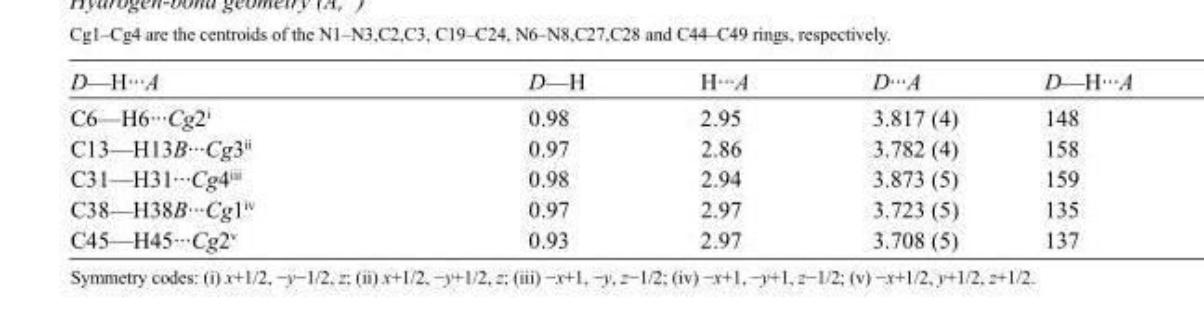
<table><tbody><tr><td>D—H···A</td><td>D—H</td><td>H···A</td><td>D···A</td><td>D—H···A</td></tr><tr><td>C6—H6···Cg2<sup>i</sup></td><td>0.98</td><td>2.95</td><td>3.817 (4)</td><td>148</td></tr><tr><td>C13—H13B···Cg3<sup>ii</sup></td><td>0.97</td><td>2.86</td><td>3.782 (4)</td><td>158</td></tr><tr><td>C31—H31···Cg4<sup>iii</sup></td><td>0.98</td><td>2.94</td><td>3.873 (5)</td><td>159</td></tr><tr><td>C38—H38B···Cg1<sup>iv</sup></td><td>0.97</td><td>2.97</td><td>3.723 (5)</td><td>135</td></tr><tr><td>C45—H45···Cg2<sup>v</sup></td><td>0.93</td><td>2.97</td><td>3.708 (5)</td><td>137</td></tr></tbody></table>